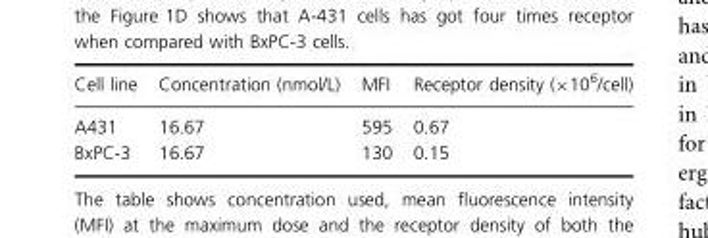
<table><thead><tr><td>Cell line</td><td>Concentration (nmol/L)</td><td>MFI</td><td>Receptor density (×10<sup>6</sup>/cell)</td></tr></thead><tbody><tr><td>A431</td><td>16.67</td><td>595</td><td>0.67</td></tr><tr><td>BxPC-3</td><td>16.67</td><td>130</td><td>0.15</td></tr></tbody></table>